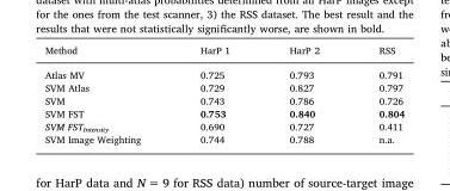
<table><thead><tr><td>Method</td><td>HarP 1</td><td>HarP 2</td><td>RSS</td></tr></thead><tbody><tr><td>Atlas MV</td><td>0.725</td><td>0.793</td><td>0.791</td></tr><tr><td>SVM Atlas</td><td>0.729</td><td>0.827</td><td>0.797</td></tr><tr><td>SVM</td><td>0.743</td><td>0.786</td><td>0.726</td></tr><tr><td>SVM FST</td><td>0.753</td><td>0.840</td><td>0.804</td></tr><tr><td>SVM FST<sub>Intensity</sub></td><td>0.690</td><td>0.727</td><td>0.411</td></tr><tr><td>SVM Image Weighting</td><td>0.744</td><td>0.788</td><td>n.a.</td></tr></tbody></table>